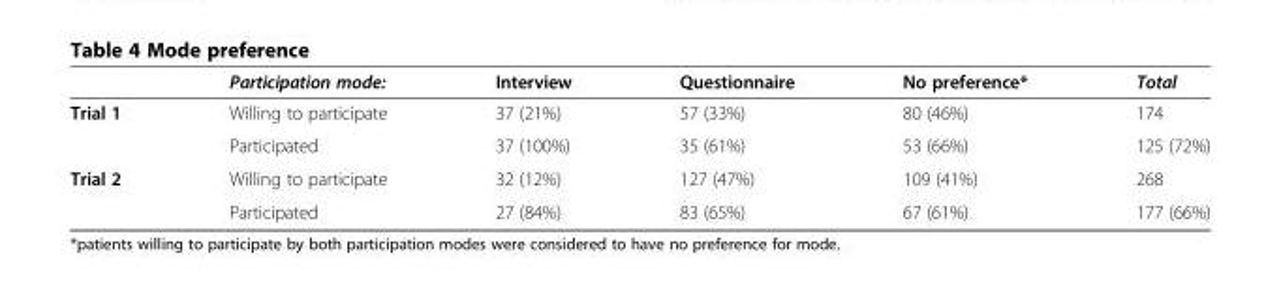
<table><thead><tr><td></td><td>Participation mode:</td><td>Interview</td><td>Questionnaire</td><td>No preference*</td><td>Total</td></tr></thead><tbody><tr><td rowspan="2">Trial 1</td><td>Willing to participate</td><td>37 (21%)</td><td>57 (33%)</td><td>80 (46%)</td><td>174</td></tr><tr><td>Participated</td><td>37 (100%)</td><td>35 (61%)</td><td>53 (66%)</td><td>125 (72%)</td></tr><tr><td rowspan="2">Trial 2</td><td>Willing to participate</td><td>32 (12%)</td><td>127 (47%)</td><td>109 (41%)</td><td>268</td></tr><tr><td>Participated</td><td>27 (84%)</td><td>83 (65%)</td><td>67 (61%)</td><td>177 (66%)</td></tr></tbody></table>